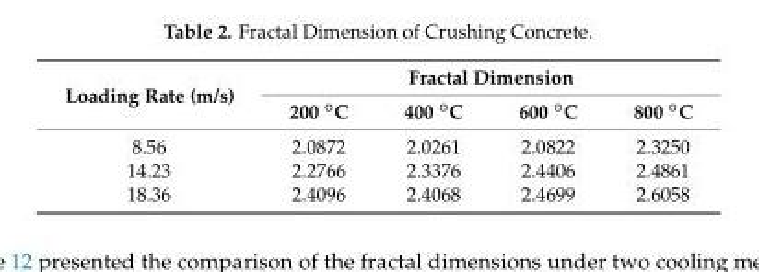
<table><thead><tr><td rowspan="2">Loading Rate (m/s)</td><td colspan="4">Fractal Dimension</td></tr><tr><td>200 ◦C</td><td>400 ◦C</td><td>600 ◦C</td><td>800 ◦C</td></tr></thead><tbody><tr><td>8.56</td><td>2.0872</td><td>2.0261</td><td>2.0822</td><td>2.3250</td></tr><tr><td>14.23</td><td>2.2766</td><td>2.3376</td><td>2.4406</td><td>2.4861</td></tr><tr><td>18.36</td><td>2.4096</td><td>2.4068</td><td>2.4699</td><td>2.6058</td></tr></tbody></table>